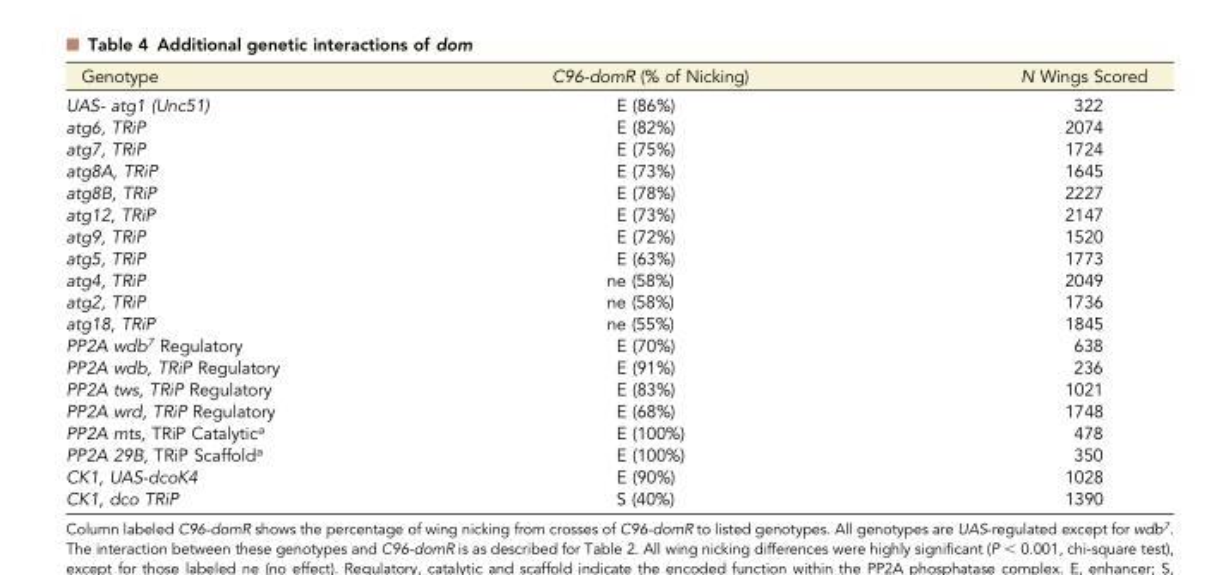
<table><thead><tr><td>Genotype</td><td>C96-domR (% of Nicking)</td><td>N Wings Scored</td></tr></thead><tbody><tr><td>UAS- atg1 (Unc51)</td><td>E (86%)</td><td>322</td></tr><tr><td>atg6, TRiP</td><td>E (82%)</td><td>2074</td></tr><tr><td>atg7, TRiP</td><td>E (75%)</td><td>1724</td></tr><tr><td>atg8A, TRiP</td><td>E (73%)</td><td>1645</td></tr><tr><td>atg8B, TRiP</td><td>E (78%)</td><td>2227</td></tr><tr><td>atg12, TRiP</td><td>E (73%)</td><td>2147</td></tr><tr><td>atg9, TRiP</td><td>E (72%)</td><td>1520</td></tr><tr><td>atg5, TRiP</td><td>E (63%)</td><td>1773</td></tr><tr><td>atg4, TRiP</td><td>ne (58%)</td><td>2049</td></tr><tr><td>atg2, TRiP</td><td>ne (58%)</td><td>1736</td></tr><tr><td>atg18, TRiP</td><td>ne (55%)</td><td>1845</td></tr><tr><td>PP2A wdb<sup>7</sup> Regulatory</td><td>E (70%)</td><td>638</td></tr><tr><td>PP2A wdb, TRiP Regulatory</td><td>E (91%)</td><td>236</td></tr><tr><td>PP2A tws, TRiP Regulatory</td><td>E (83%)</td><td>1021</td></tr><tr><td>PP2A wrd, TRiP Regulatory</td><td>E (68%)</td><td>1748</td></tr><tr><td>PP2A mts, TRiP Catalytic<sup>a</sup></td><td>E (100%)</td><td>478</td></tr><tr><td>PP2A 29B, TRiP Scaffold<sup>a</sup></td><td>E (100%)</td><td>350</td></tr><tr><td>CK1, UAS-dcoK4</td><td>E (90%)</td><td>1028</td></tr><tr><td>CK1, dco TRiP</td><td>S (40%)</td><td>1390</td></tr></tbody></table>